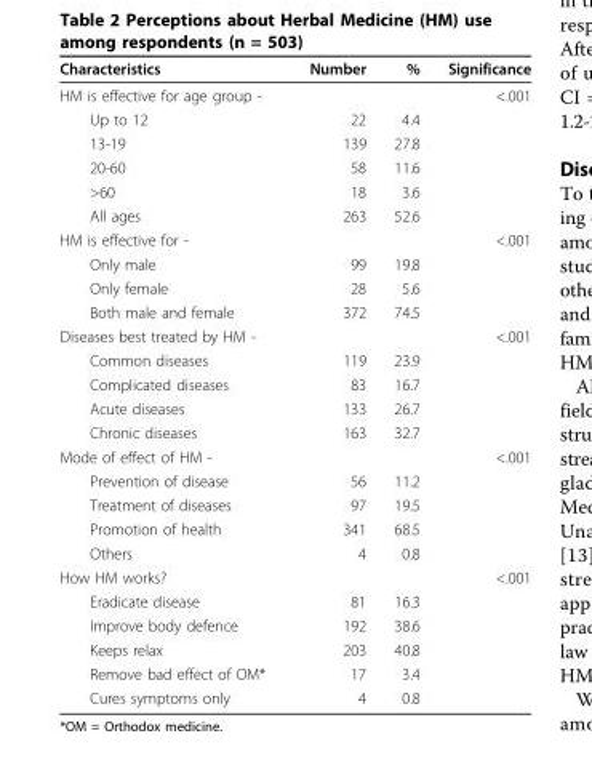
<table><thead><tr><td>Characteristics</td><td>Number</td><td>%</td><td>Significance</td></tr></thead><tbody><tr><td>HM is effective for age group -</td><td></td><td></td><td>&lt;.001</td></tr><tr><td>Up to 12</td><td>22</td><td>4.4</td><td></td></tr><tr><td>13-19</td><td>139</td><td>27.8</td><td></td></tr><tr><td>20-60</td><td>58</td><td>11.6</td><td></td></tr><tr><td>&gt;60</td><td>18</td><td>3.6</td><td></td></tr><tr><td>All ages</td><td>263</td><td>52.6</td><td></td></tr><tr><td>HM is effective for -</td><td></td><td></td><td>&lt;.001</td></tr><tr><td>Only male</td><td>99</td><td>19.8</td><td></td></tr><tr><td>Only female</td><td>28</td><td>5.6</td><td></td></tr><tr><td>Both male and female</td><td>372</td><td>74.5</td><td></td></tr><tr><td>Diseases best treated by HM -</td><td></td><td></td><td>&lt;.001</td></tr><tr><td>Common diseases</td><td>119</td><td>23.9</td><td></td></tr><tr><td>Complicated diseases</td><td>83</td><td>16.7</td><td></td></tr><tr><td>Acute diseases</td><td>133</td><td>26.7</td><td></td></tr><tr><td>Chronic diseases</td><td>163</td><td>32.7</td><td></td></tr><tr><td>Mode of effect of HM -</td><td></td><td></td><td>&lt;.001</td></tr><tr><td>Prevention of disease</td><td>56</td><td>11.2</td><td></td></tr><tr><td>Treatment of diseases</td><td>97</td><td>19.5</td><td></td></tr><tr><td>Promotion of health</td><td>341</td><td>68.5</td><td></td></tr><tr><td>Others</td><td>4</td><td>0.8</td><td></td></tr><tr><td>How HM works?</td><td></td><td></td><td>&lt;.001</td></tr><tr><td>Eradicate disease</td><td>81</td><td>16.3</td><td></td></tr><tr><td>Improve body defence</td><td>192</td><td>38.6</td><td></td></tr><tr><td>Keeps relax</td><td>203</td><td>40.8</td><td></td></tr><tr><td>Remove bad effect of OM*</td><td>17</td><td>3.4</td><td></td></tr><tr><td>Cures symptoms only</td><td>4</td><td>0.8</td><td></td></tr></tbody></table>